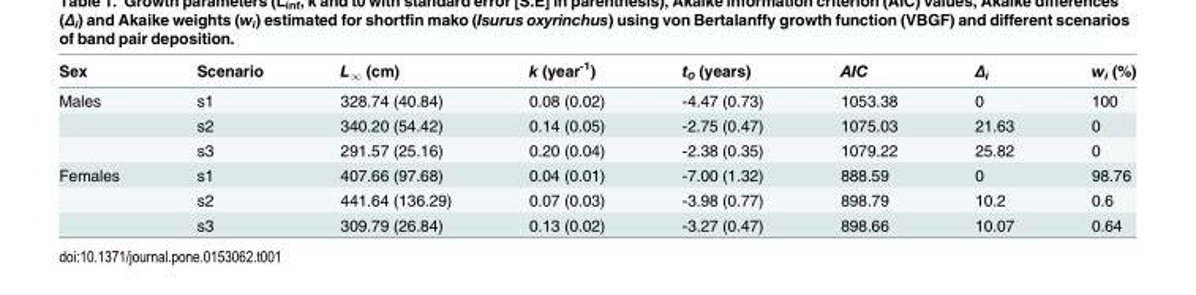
<table><thead><tr><td>Sex</td><td>Scenario</td><td>L<sub>∞</sub> (cm)</td><td>k (year<sup>-1</sup>)</td><td>t<sub>0</sub> (years)</td><td>AIC</td><td>Δi</td><td>w<sub>i</sub> (%)</td></tr></thead><tbody><tr><td rowspan="3">Males</td><td>s1</td><td>328.74 (40.84)</td><td>0.08 (0.02)</td><td>-4.47 (0.73)</td><td>1053.38</td><td>0</td><td>100</td></tr><tr><td>s2</td><td>340.20 (54.42)</td><td>0.14 (0.05)</td><td>-2.75 (0.47)</td><td>1075.03</td><td>21.63</td><td>0</td></tr><tr><td>s3</td><td>291.57 (25.16)</td><td>0.20 (0.04)</td><td>-2.38 (0.35)</td><td>1079.22</td><td>25.82</td><td>0</td></tr><tr><td rowspan="3">Females</td><td>s1</td><td>407.66 (97.68)</td><td>0.04 (0.01)</td><td>-7.00 (1.32)</td><td>888.59</td><td>0</td><td>98.76</td></tr><tr><td>s2</td><td>441.64 (136.29)</td><td>0.07 (0.03)</td><td>-3.98 (0.77)</td><td>898.79</td><td>10.2</td><td>0.6</td></tr><tr><td>s3</td><td>309.79 (26.84)</td><td>0.13 (0.02)</td><td>-3.27 (0.47)</td><td>898.66</td><td>10.07</td><td>0.64</td></tr></tbody></table>